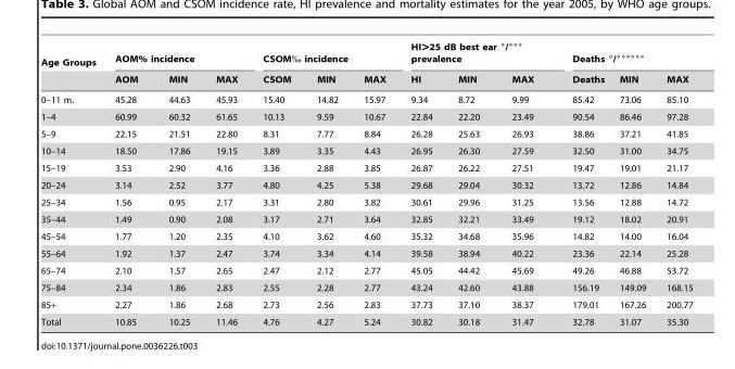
<table><thead><tr><td rowspan="2">Age Groups</td><td colspan="3">AOM% incidence</td><td colspan="3">CSOM‰ incidence</td><td colspan="3">HI&gt;25 dB best ear °/°°° prevalence</td><td colspan="3">Deaths °/°°°°°°</td></tr><tr><td>AOM</td><td>MIN</td><td>MAX</td><td>CSOM</td><td>MIN</td><td>MAX</td><td>HI</td><td>MIN</td><td>MAX</td><td>Deaths</td><td>MIN</td><td>MAX</td></tr></thead><tbody><tr><td>0–11 m.</td><td>45.28</td><td>44.63</td><td>45.93</td><td>15.40</td><td>14.82</td><td>15.97</td><td>9.34</td><td>8.72</td><td>9.99</td><td>85.42</td><td>73.06</td><td>85.10</td></tr><tr><td>1–4</td><td>60.99</td><td>60.32</td><td>61.65</td><td>10.13</td><td>9.59</td><td>10.67</td><td>22.84</td><td>22.20</td><td>23.49</td><td>90.54</td><td>86.46</td><td>97.28</td></tr><tr><td>5–9</td><td>22.15</td><td>21.51</td><td>22.80</td><td>8.31</td><td>7.77</td><td>8.84</td><td>26.28</td><td>25.63</td><td>26.93</td><td>38.86</td><td>37.21</td><td>41.85</td></tr><tr><td>10–14</td><td>18.50</td><td>17.86</td><td>19.15</td><td>3.89</td><td>3.35</td><td>4.43</td><td>26.95</td><td>26.30</td><td>27.59</td><td>32.50</td><td>31.00</td><td>34.75</td></tr><tr><td>15–19</td><td>3.53</td><td>2.90</td><td>4.16</td><td>3.36</td><td>2.88</td><td>3.85</td><td>26.87</td><td>26.22</td><td>27.51</td><td>19.47</td><td>19.01</td><td>21.17</td></tr><tr><td>20–24</td><td>3.14</td><td>2.52</td><td>3.77</td><td>4.80</td><td>4.25</td><td>5.38</td><td>29.68</td><td>29.04</td><td>30.32</td><td>13.72</td><td>12.86</td><td>14.84</td></tr><tr><td>25–34</td><td>1.56</td><td>0.95</td><td>2.17</td><td>3.31</td><td>2.80</td><td>3.82</td><td>30.61</td><td>29.96</td><td>31.25</td><td>13.56</td><td>12.88</td><td>14.72</td></tr><tr><td>35–44</td><td>1.49</td><td>0.90</td><td>2.08</td><td>3.17</td><td>2.71</td><td>3.64</td><td>32.85</td><td>32.21</td><td>33.49</td><td>19.12</td><td>18.02</td><td>20.91</td></tr><tr><td>45–54</td><td>1.77</td><td>1.20</td><td>2.35</td><td>4.10</td><td>3.62</td><td>4.60</td><td>35.32</td><td>34.68</td><td>35.96</td><td>14.82</td><td>14.00</td><td>16.04</td></tr><tr><td>55–64</td><td>1.92</td><td>1.37</td><td>2.47</td><td>3.74</td><td>3.34</td><td>4.14</td><td>39.58</td><td>38.94</td><td>40.22</td><td>23.36</td><td>22.14</td><td>25.28</td></tr><tr><td>65–74</td><td>2.10</td><td>1.57</td><td>2.65</td><td>2.47</td><td>2.12</td><td>2.77</td><td>45.05</td><td>44.42</td><td>45.69</td><td>49.26</td><td>46.88</td><td>53.72</td></tr><tr><td>75–84</td><td>2.34</td><td>1.86</td><td>2.83</td><td>2.55</td><td>2.28</td><td>2.77</td><td>43.24</td><td>42.60</td><td>43.88</td><td>156.19</td><td>149.09</td><td>168.15</td></tr><tr><td>85+</td><td>2.27</td><td>1.86</td><td>2.68</td><td>2.73</td><td>2.56</td><td>2.83</td><td>37.73</td><td>37.10</td><td>38.37</td><td>179.01</td><td>167.26</td><td>200.77</td></tr><tr><td>Total</td><td>10.85</td><td>10.25</td><td>11.46</td><td>4.76</td><td>4.27</td><td>5.24</td><td>30.82</td><td>30.18</td><td>31.47</td><td>32.78</td><td>31.07</td><td>35.30</td></tr></tbody></table>